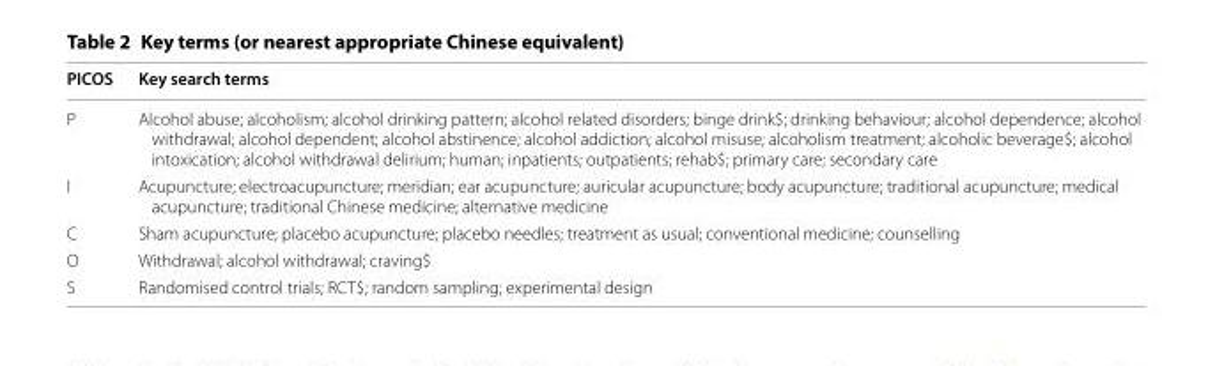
<table><thead><tr><td>PICOS</td><td>Key search terms</td></tr></thead><tbody><tr><td>P</td><td>Alcohol abuse; alcoholism; alcohol drinking pattern; alcohol related disorders; binge drink$; drinking behaviour; alcohol dependence; alcohol withdrawal; alcohol dependent; alcohol abstinence; alcohol addiction; alcohol misuse; alcoholism treatment; alcoholic beverage$; alcohol intoxication; alcohol withdrawal delirium; human; inpatients; outpatients; rehab$; primary care; secondary care</td></tr><tr><td>I</td><td>Acupuncture; electroacupuncture; meridian; ear acupuncture; auricular acupuncture; body acupuncture; traditional acupuncture; medical acupuncture; traditional Chinese medicine; alternative medicine</td></tr><tr><td>C</td><td>Sham acupuncture; placebo acupuncture; placebo needles; treatment as usual; conventional medicine; counselling</td></tr><tr><td>O</td><td>Withdrawal; alcohol withdrawal; craving$</td></tr><tr><td>S</td><td>Randomised control trials; RCT$; random sampling; experimental design</td></tr></tbody></table>